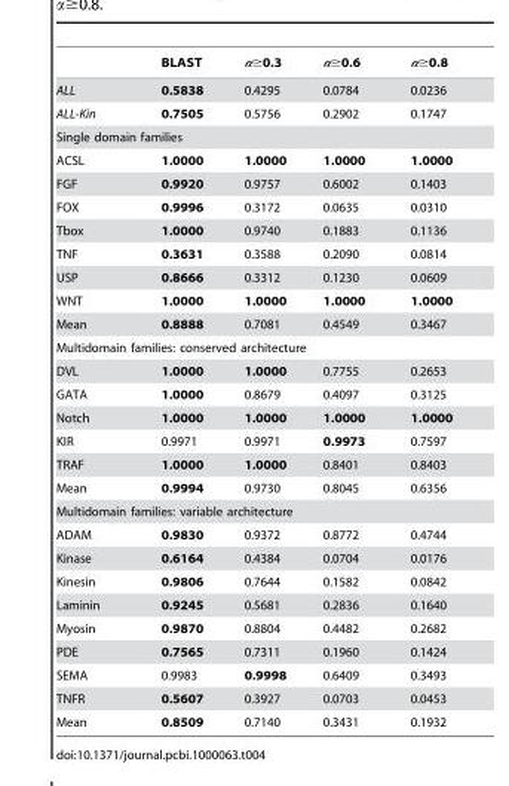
<table><thead><tr><td></td><td>BLAST</td><td>α≥0.3</td><td>α≥0.6</td><td>α≥0.8</td></tr></thead><tbody><tr><td>ALL</td><td>0.5838</td><td>0.4295</td><td>0.0784</td><td>0.0236</td></tr><tr><td>ALL-Kin</td><td>0.7505</td><td>0.5756</td><td>0.2902</td><td>0.1747</td></tr><tr><td colspan="5">Single domain families</td></tr><tr><td>ACSL</td><td>1.0000</td><td>1.0000</td><td>1.0000</td><td>1.0000</td></tr><tr><td>FGF</td><td>0.9920</td><td>0.9757</td><td>0.6002</td><td>0.1403</td></tr><tr><td>FOX</td><td>0.9996</td><td>0.3172</td><td>0.0635</td><td>0.0310</td></tr><tr><td>Tbox</td><td>1.0000</td><td>0.9740</td><td>0.1883</td><td>0.1136</td></tr><tr><td>TNF</td><td>0.3631</td><td>0.3588</td><td>0.2090</td><td>0.0814</td></tr><tr><td>USP</td><td>0.8666</td><td>0.3312</td><td>0.1230</td><td>0.0609</td></tr><tr><td>WNT</td><td>1.0000</td><td>1.0000</td><td>1.0000</td><td>1.0000</td></tr><tr><td>Mean</td><td>0.8888</td><td>0.7081</td><td>0.4549</td><td>0.3467</td></tr><tr><td colspan="5">Multidomain families: conserved architecture</td></tr><tr><td>DVL</td><td>1.0000</td><td>1.0000</td><td>0.7755</td><td>0.2653</td></tr><tr><td>GATA</td><td>1.0000</td><td>0.8679</td><td>0.4097</td><td>0.3125</td></tr><tr><td>Notch</td><td>1.0000</td><td>1.0000</td><td>1.0000</td><td>1.0000</td></tr><tr><td>KIR</td><td>0.9971</td><td>0.9971</td><td>0.9973</td><td>0.7597</td></tr><tr><td>TRAF</td><td>1.0000</td><td>1.0000</td><td>0.8401</td><td>0.8403</td></tr><tr><td>Mean</td><td>0.9994</td><td>0.9730</td><td>0.8045</td><td>0.6356</td></tr><tr><td colspan="5">Multidomain families: variable architecture</td></tr><tr><td>ADAM</td><td>0.9830</td><td>0.9372</td><td>0.8772</td><td>0.4744</td></tr><tr><td>Kinase</td><td>0.6164</td><td>0.4384</td><td>0.0704</td><td>0.0176</td></tr><tr><td>Kinesin</td><td>0.9806</td><td>0.7644</td><td>0.1582</td><td>0.0842</td></tr><tr><td>Laminin</td><td>0.9245</td><td>0.5681</td><td>0.2836</td><td>0.1640</td></tr><tr><td>Myosin</td><td>0.9870</td><td>0.8804</td><td>0.4482</td><td>0.2682</td></tr><tr><td>PDE</td><td>0.7565</td><td>0.7311</td><td>0.1960</td><td>0.1424</td></tr><tr><td>SEMA</td><td>0.9983</td><td>0.9998</td><td>0.6409</td><td>0.3493</td></tr><tr><td>TNFR</td><td>0.5607</td><td>0.3927</td><td>0.0703</td><td>0.0453</td></tr><tr><td>Mean</td><td>0.8509</td><td>0.7140</td><td>0.3431</td><td>0.1932</td></tr></tbody></table>